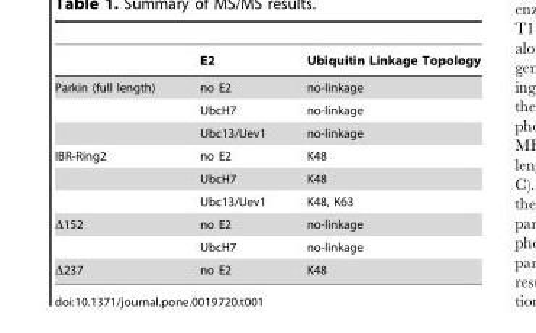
<table><thead><tr><td></td><td>E2</td><td>Ubiquitin Linkage Topology</td></tr></thead><tbody><tr><td rowspan="3">Parkin (full length)</td><td>no E2</td><td>no-linkage</td></tr><tr><td>UbcH7</td><td>no-linkage</td></tr><tr><td>Ubc13/Uev1</td><td>no-linkage</td></tr><tr><td rowspan="3">IBR-Ring2</td><td>no E2</td><td>K48</td></tr><tr><td>UbcH7</td><td>K48</td></tr><tr><td>Ubc13/Uev1</td><td>K48, K63</td></tr><tr><td rowspan="2">Δ152</td><td>no E2</td><td>no-linkage</td></tr><tr><td>UbcH7</td><td>no-linkage</td></tr><tr><td>Δ237</td><td>no E2</td><td>K48</td></tr></tbody></table>